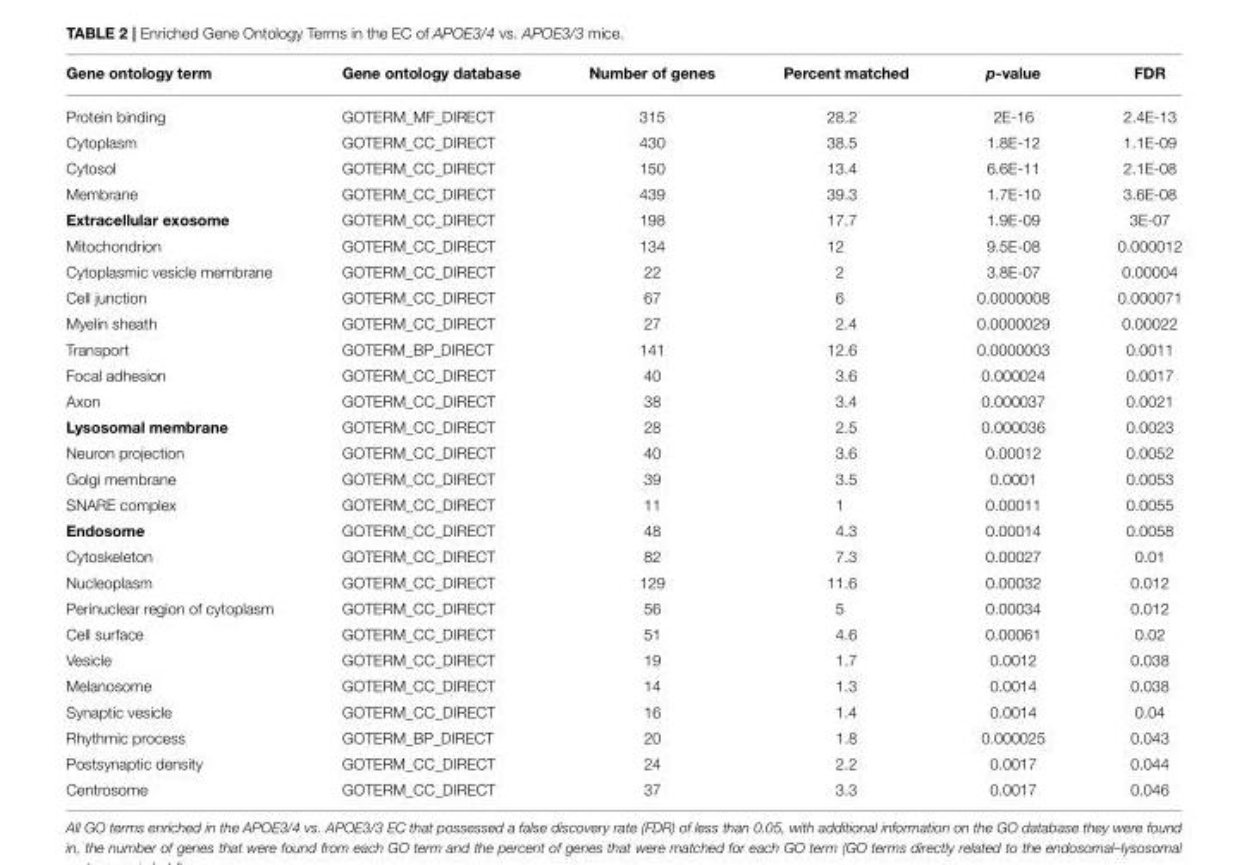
<table><thead><tr><td>Gene ontology term</td><td>Gene ontology database</td><td>Number of genes</td><td>Percent matched</td><td>p-value</td><td>FDR</td></tr></thead><tbody><tr><td>Protein binding</td><td>GOTERM_MF_DIRECT</td><td>315</td><td>28.2</td><td>2E-16</td><td>2.4E-13</td></tr><tr><td>Cytoplasm</td><td>GOTERM_CC_DIRECT</td><td>430</td><td>38.5</td><td>1.8E-12</td><td>1.1E-09</td></tr><tr><td>Cytosol</td><td>GOTERM_CC_DIRECT</td><td>150</td><td>13.4</td><td>6.6E-11</td><td>2.1E-08</td></tr><tr><td>Membrane</td><td>GOTERM_CC_DIRECT</td><td>439</td><td>39.3</td><td>1.7E-10</td><td>3.6E-08</td></tr><tr><td>Extracellular exosome</td><td>GOTERM_CC_DIRECT</td><td>198</td><td>17.7</td><td>1.9E-09</td><td>3E-07</td></tr><tr><td>Mitochondrion</td><td>GOTERM_CC_DIRECT</td><td>134</td><td>12</td><td>9.5E-08</td><td>0.000012</td></tr><tr><td>Cytoplasmic vesicle membrane</td><td>GOTERM_CC_DIRECT</td><td>22</td><td>2</td><td>3.8E-07</td><td>0.00004</td></tr><tr><td>Cell junction</td><td>GOTERM_CC_DIRECT</td><td>67</td><td>6</td><td>0.0000008</td><td>0.000071</td></tr><tr><td>Myelin sheath</td><td>GOTERM_CC_DIRECT</td><td>27</td><td>2.4</td><td>0.0000029</td><td>0.00022</td></tr><tr><td>Transport</td><td>GOTERM_BP_DIRECT</td><td>141</td><td>12.6</td><td>0.0000003</td><td>0.0011</td></tr><tr><td>Focal adhesion</td><td>GOTERM_CC_DIRECT</td><td>40</td><td>3.6</td><td>0.000024</td><td>0.0017</td></tr><tr><td>Axon</td><td>GOTERM_CC_DIRECT</td><td>38</td><td>3.4</td><td>0.000037</td><td>0.0021</td></tr><tr><td>Lysosomal membrane</td><td>GOTERM_CC_DIRECT</td><td>28</td><td>2.5</td><td>0.000036</td><td>0.0023</td></tr><tr><td>Neuron projection</td><td>GOTERM_CC_DIRECT</td><td>40</td><td>3.6</td><td>0.00012</td><td>0.0052</td></tr><tr><td>Golgi membrane</td><td>GOTERM_CC_DIRECT</td><td>39</td><td>3.5</td><td>0.0001</td><td>0.0053</td></tr><tr><td>SNARE complex</td><td>GOTERM_CC_DIRECT</td><td>11</td><td>1</td><td>0.00011</td><td>0.0055</td></tr><tr><td>Endosome</td><td>GOTERM_CC_DIRECT</td><td>48</td><td>4.3</td><td>0.00014</td><td>0.0058</td></tr><tr><td>Cytoskeleton</td><td>GOTERM_CC_DIRECT</td><td>82</td><td>7.3</td><td>0.00027</td><td>0.01</td></tr><tr><td>Nucleoplasm</td><td>GOTERM_CC_DIRECT</td><td>129</td><td>11.6</td><td>0.00032</td><td>0.012</td></tr><tr><td>Perinuclear region of cytoplasm</td><td>GOTERM_CC_DIRECT</td><td>56</td><td>5</td><td>0.00034</td><td>0.012</td></tr><tr><td>Cell surface</td><td>GOTERM_CC_DIRECT</td><td>51</td><td>4.6</td><td>0.00061</td><td>0.02</td></tr><tr><td>Vesicle</td><td>GOTERM_CC_DIRECT</td><td>19</td><td>1.7</td><td>0.0012</td><td>0.038</td></tr><tr><td>Melanosome</td><td>GOTERM_CC_DIRECT</td><td>14</td><td>1.3</td><td>0.0014</td><td>0.038</td></tr><tr><td>Synaptic vesicle</td><td>GOTERM_CC_DIRECT</td><td>16</td><td>1.4</td><td>0.0014</td><td>0.04</td></tr><tr><td>Rhythmic process</td><td>GOTERM_BP_DIRECT</td><td>20</td><td>1.8</td><td>0.000025</td><td>0.043</td></tr><tr><td>Postsynaptic density</td><td>GOTERM_CC_DIRECT</td><td>24</td><td>2.2</td><td>0.0017</td><td>0.044</td></tr><tr><td>Centrosome</td><td>GOTERM_CC_DIRECT</td><td>37</td><td>3.3</td><td>0.0017</td><td>0.046</td></tr></tbody></table>